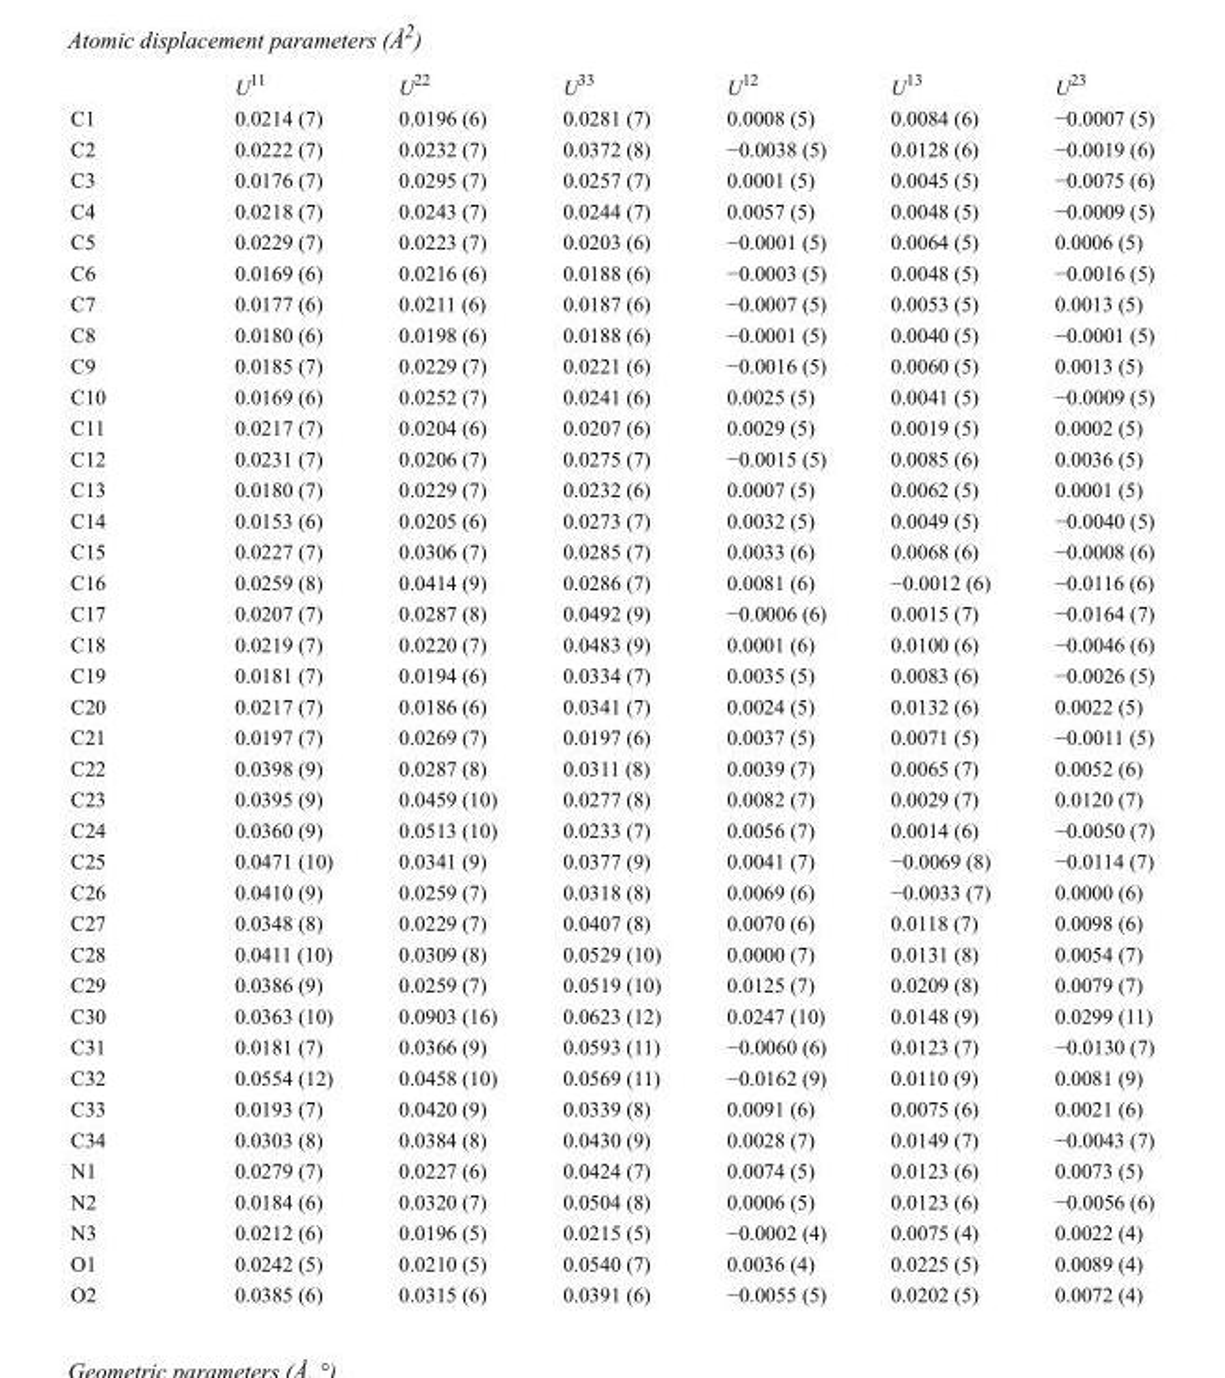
<table><thead><tr><td></td><td>U<sup>11</sup></td><td>U<sup>22</sup></td><td>U<sup>33</sup></td><td>U<sup>12</sup></td><td>U<sup>13</sup></td><td>U<sup>23</sup></td></tr></thead><tbody><tr><td>C1</td><td>0.0214 (7)</td><td>0.0196 (6)</td><td>0.0281 (7)</td><td>0.0008 (5)</td><td>0.0084 (6)</td><td>−0.0007 (5)</td></tr><tr><td>C2</td><td>0.0222 (7)</td><td>0.0232 (7)</td><td>0.0372 (8)</td><td>−0.0038 (5)</td><td>0.0128 (6)</td><td>−0.0019 (6)</td></tr><tr><td>C3</td><td>0.0176 (7)</td><td>0.0295 (7)</td><td>0.0257 (7)</td><td>0.0001 (5)</td><td>0.0045 (5)</td><td>−0.0075 (6)</td></tr><tr><td>C4</td><td>0.0218 (7)</td><td>0.0243 (7)</td><td>0.0244 (7)</td><td>0.0057 (5)</td><td>0.0048 (5)</td><td>−0.0009 (5)</td></tr><tr><td>C5</td><td>0.0229 (7)</td><td>0.0223 (7)</td><td>0.0203 (6)</td><td>−0.0001 (5)</td><td>0.0064 (5)</td><td>0.0006 (5)</td></tr><tr><td>C6</td><td>0.0169 (6)</td><td>0.0216 (6)</td><td>0.0188 (6)</td><td>−0.0003 (5)</td><td>0.0048 (5)</td><td>−0.0016 (5)</td></tr><tr><td>C7</td><td>0.0177 (6)</td><td>0.0211 (6)</td><td>0.0187 (6)</td><td>−0.0007 (5)</td><td>0.0053 (5)</td><td>0.0013 (5)</td></tr><tr><td>C8</td><td>0.0180 (6)</td><td>0.0198 (6)</td><td>0.0188 (6)</td><td>−0.0001 (5)</td><td>0.0040 (5)</td><td>−0.0001 (5)</td></tr><tr><td>C9</td><td>0.0185 (7)</td><td>0.0229 (7)</td><td>0.0221 (6)</td><td>−0.0016 (5)</td><td>0.0060 (5)</td><td>0.0013 (5)</td></tr><tr><td>C10</td><td>0.0169 (6)</td><td>0.0252 (7)</td><td>0.0241 (6)</td><td>0.0025 (5)</td><td>0.0041 (5)</td><td>−0.0009 (5)</td></tr><tr><td>C11</td><td>0.0217 (7)</td><td>0.0204 (6)</td><td>0.0207 (6)</td><td>0.0029 (5)</td><td>0.0019 (5)</td><td>0.0002 (5)</td></tr><tr><td>C12</td><td>0.0231 (7)</td><td>0.0206 (7)</td><td>0.0275 (7)</td><td>−0.0015 (5)</td><td>0.0085 (6)</td><td>0.0036 (5)</td></tr><tr><td>C13</td><td>0.0180 (7)</td><td>0.0229 (7)</td><td>0.0232 (6)</td><td>0.0007 (5)</td><td>0.0062 (5)</td><td>0.0001 (5)</td></tr><tr><td>C14</td><td>0.0153 (6)</td><td>0.0205 (6)</td><td>0.0273 (7)</td><td>0.0032 (5)</td><td>0.0049 (5)</td><td>−0.0040 (5)</td></tr><tr><td>C15</td><td>0.0227 (7)</td><td>0.0306 (7)</td><td>0.0285 (7)</td><td>0.0033 (6)</td><td>0.0068 (6)</td><td>−0.0008 (6)</td></tr><tr><td>C16</td><td>0.0259 (8)</td><td>0.0414 (9)</td><td>0.0286 (7)</td><td>0.0081 (6)</td><td>−0.0012 (6)</td><td>−0.0116 (6)</td></tr><tr><td>C17</td><td>0.0207 (7)</td><td>0.0287 (8)</td><td>0.0492 (9)</td><td>−0.0006 (6)</td><td>0.0015 (7)</td><td>−0.0164 (7)</td></tr><tr><td>C18</td><td>0.0219 (7)</td><td>0.0220 (7)</td><td>0.0483 (9)</td><td>0.0001 (6)</td><td>0.0100 (6)</td><td>−0.0046 (6)</td></tr><tr><td>C19</td><td>0.0181 (7)</td><td>0.0194 (6)</td><td>0.0334 (7)</td><td>0.0035 (5)</td><td>0.0083 (6)</td><td>−0.0026 (5)</td></tr><tr><td>C20</td><td>0.0217 (7)</td><td>0.0186 (6)</td><td>0.0341 (7)</td><td>0.0024 (5)</td><td>0.0132 (6)</td><td>0.0022 (5)</td></tr><tr><td>C21</td><td>0.0197 (7)</td><td>0.0269 (7)</td><td>0.0197 (6)</td><td>0.0037 (5)</td><td>0.0071 (5)</td><td>−0.0011 (5)</td></tr><tr><td>C22</td><td>0.0398 (9)</td><td>0.0287 (8)</td><td>0.0311 (8)</td><td>0.0039 (7)</td><td>0.0065 (7)</td><td>0.0052 (6)</td></tr><tr><td>C23</td><td>0.0395 (9)</td><td>0.0459 (10)</td><td>0.0277 (8)</td><td>0.0082 (7)</td><td>0.0029 (7)</td><td>0.0120 (7)</td></tr><tr><td>C24</td><td>0.0360 (9)</td><td>0.0513 (10)</td><td>0.0233 (7)</td><td>0.0056 (7)</td><td>0.0014 (6)</td><td>−0.0050 (7)</td></tr><tr><td>C25</td><td>0.0471 (10)</td><td>0.0341 (9)</td><td>0.0377 (9)</td><td>0.0041 (7)</td><td>−0.0069 (8)</td><td>−0.0114 (7)</td></tr><tr><td>C26</td><td>0.0410 (9)</td><td>0.0259 (7)</td><td>0.0318 (8)</td><td>0.0069 (6)</td><td>−0.0033 (7)</td><td>0.0000 (6)</td></tr><tr><td>C27</td><td>0.0348 (8)</td><td>0.0229 (7)</td><td>0.0407 (8)</td><td>0.0070 (6)</td><td>0.0118 (7)</td><td>0.0098 (6)</td></tr><tr><td>C28</td><td>0.0411 (10)</td><td>0.0309 (8)</td><td>0.0529 (10)</td><td>0.0000 (7)</td><td>0.0131 (8)</td><td>0.0054 (7)</td></tr><tr><td>C29</td><td>0.0386 (9)</td><td>0.0259 (7)</td><td>0.0519 (10)</td><td>0.0125 (7)</td><td>0.0209 (8)</td><td>0.0079 (7)</td></tr><tr><td>C30</td><td>0.0363 (10)</td><td>0.0903 (16)</td><td>0.0623 (12)</td><td>0.0247 (10)</td><td>0.0148 (9)</td><td>0.0299 (11)</td></tr><tr><td>C31</td><td>0.0181 (7)</td><td>0.0366 (9)</td><td>0.0593 (11)</td><td>−0.0060 (6)</td><td>0.0123 (7)</td><td>−0.0130 (7)</td></tr><tr><td>C32</td><td>0.0554 (12)</td><td>0.0458 (10)</td><td>0.0569 (11)</td><td>−0.0162 (9)</td><td>0.0110 (9)</td><td>0.0081 (9)</td></tr><tr><td>C33</td><td>0.0193 (7)</td><td>0.0420 (9)</td><td>0.0339 (8)</td><td>0.0091 (6)</td><td>0.0075 (6)</td><td>0.0021 (6)</td></tr><tr><td>C34</td><td>0.0303 (8)</td><td>0.0384 (8)</td><td>0.0430 (9)</td><td>0.0028 (7)</td><td>0.0149 (7)</td><td>−0.0043 (7)</td></tr><tr><td>N1</td><td>0.0279 (7)</td><td>0.0227 (6)</td><td>0.0424 (7)</td><td>0.0074 (5)</td><td>0.0123 (6)</td><td>0.0073 (5)</td></tr><tr><td>N2</td><td>0.0184 (6)</td><td>0.0320 (7)</td><td>0.0504 (8)</td><td>0.0006 (5)</td><td>0.0123 (6)</td><td>−0.0056 (6)</td></tr><tr><td>N3</td><td>0.0212 (6)</td><td>0.0196 (5)</td><td>0.0215 (5)</td><td>−0.0002 (4)</td><td>0.0075 (4)</td><td>0.0022 (4)</td></tr><tr><td>O1</td><td>0.0242 (5)</td><td>0.0210 (5)</td><td>0.0540 (7)</td><td>0.0036 (4)</td><td>0.0225 (5)</td><td>0.0089 (4)</td></tr><tr><td>O2</td><td>0.0385 (6)</td><td>0.0315 (6)</td><td>0.0391 (6)</td><td>−0.0055 (5)</td><td>0.0202 (5)</td><td>0.0072 (4)</td></tr></tbody></table>